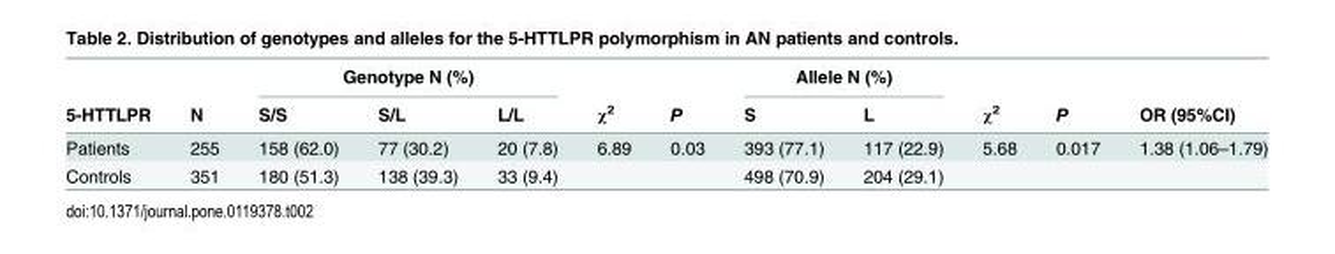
<table><thead><tr><td rowspan="2">5-HTTLPR</td><td rowspan="2">N</td><td colspan="3">Genotype N (%)</td><td rowspan="2">χ<sup>2</sup></td><td rowspan="2">P</td><td colspan="2">Allele N (%)</td><td rowspan="2">χ<sup>2</sup></td><td rowspan="2">P</td><td rowspan="2">OR (95%CI)</td></tr><tr><td>S/S</td><td>S/L</td><td>L/L</td><td>S</td><td>L</td></tr></thead><tbody><tr><td>Patients</td><td>255</td><td>158 (62.0)</td><td>77 (30.2)</td><td>20 (7.8)</td><td>6.89</td><td>0.03</td><td>393 (77.1)</td><td>117 (22.9)</td><td>5.68</td><td>0.017</td><td>1.38 (1.06–1.79)</td></tr><tr><td>Controls</td><td>351</td><td>180 (51.3)</td><td>138 (39.3)</td><td>33 (9.4)</td><td></td><td></td><td>498 (70.9)</td><td>204 (29.1)</td><td></td><td></td><td></td></tr></tbody></table>